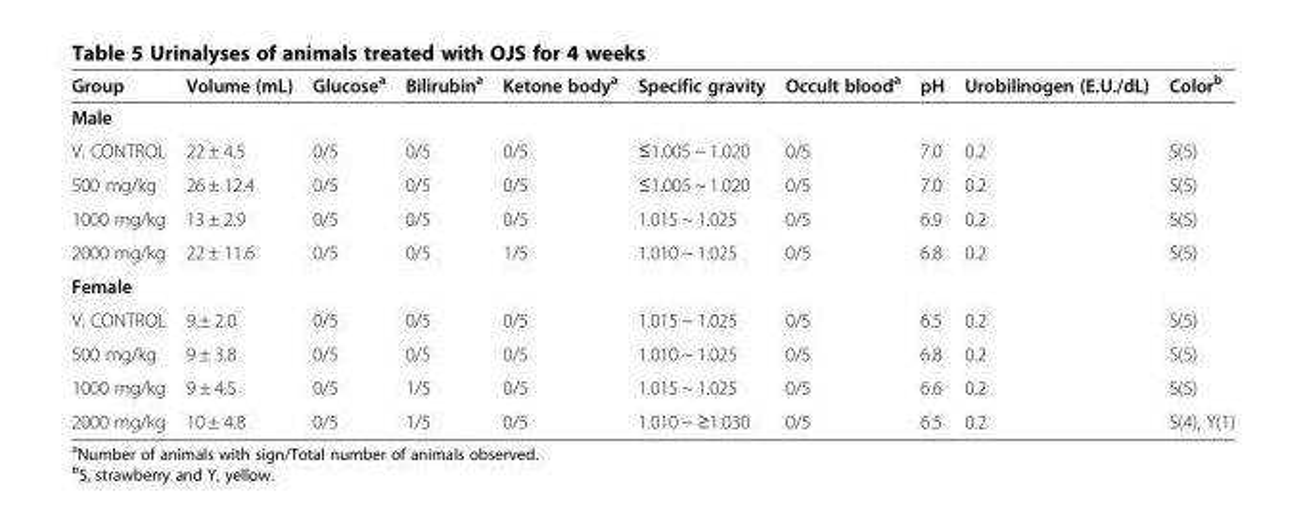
<table><thead><tr><td>Group</td><td>Volume (mL)</td><td>Glucose<sup>a</sup></td><td>Bilirubin<sup>a</sup></td><td>Ketone body<sup>a</sup></td><td>Specific gravity</td><td>Occult blood<sup>a</sup></td><td>pH</td><td>Urobilinogen (E.U./dL)</td><td>Color<sup>b</sup></td></tr></thead><tbody><tr><td colspan="10">Male</td></tr><tr><td>V. CONTROL</td><td>22 ± 4.5</td><td>0/5</td><td>0/5</td><td>0/5</td><td>≤1.005 ~ 1.020</td><td>0/5</td><td>7.0</td><td>0.2</td><td>S(5)</td></tr><tr><td>500 mg/kg</td><td>26 ± 12.4</td><td>0/5</td><td>0/5</td><td>0/5</td><td>≤1.005 ~ 1.020</td><td>0/5</td><td>7.0</td><td>0.2</td><td>S(5)</td></tr><tr><td>1000 mg/kg</td><td>13 ± 2.9</td><td>0/5</td><td>0/5</td><td>0/5</td><td>1.015 ~ 1.025</td><td>0/5</td><td>6.9</td><td>0.2</td><td>S(5)</td></tr><tr><td>2000 mg/kg</td><td>22 ± 11.6</td><td>0/5</td><td>0/5</td><td>1/5</td><td>1.010 ~ 1.025</td><td>0/5</td><td>6.8</td><td>0.2</td><td>S(5)</td></tr><tr><td colspan="10">Female</td></tr><tr><td>V. CONTROL</td><td>9 ± 2.0</td><td>0/5</td><td>0/5</td><td>0/5</td><td>1.015 ~ 1.025</td><td>0/5</td><td>6.5</td><td>0.2</td><td>S(5)</td></tr><tr><td>500 mg/kg</td><td>9 ± 3.8</td><td>0/5</td><td>0/5</td><td>0/5</td><td>1.010 ~ 1.025</td><td>0/5</td><td>6.8</td><td>0.2</td><td>S(5)</td></tr><tr><td>1000 mg/kg</td><td>9 ± 4.5</td><td>0/5</td><td>1/5</td><td>0/5</td><td>1.015 ~ 1.025</td><td>0/5</td><td>6.6</td><td>0.2</td><td>S(5)</td></tr><tr><td>2000 mg/kg</td><td>10 ± 4.8</td><td>0/5</td><td>1/5</td><td>0/5</td><td>1.010 ~ ≥1.030</td><td>0/5</td><td>6.5</td><td>0.2</td><td>S(4), Y(1)</td></tr></tbody></table>